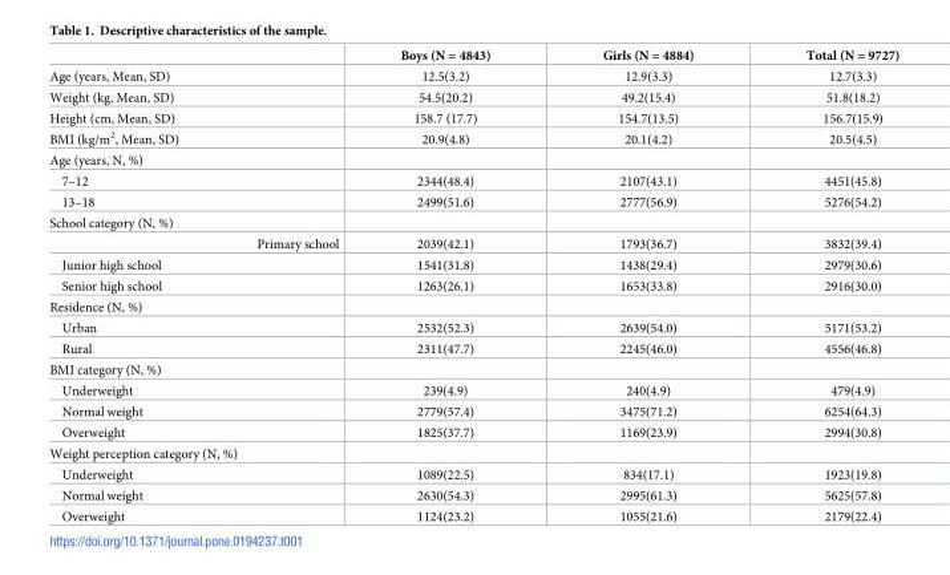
<table><thead><tr><td></td><td>Boys (N = 4843)</td><td>Girls (N = 4884)</td><td>Total (N = 9727)</td></tr></thead><tbody><tr><td>Age (years, Mean, SD)</td><td>12.5(3.2)</td><td>12.9(3.3)</td><td>12.7(3.3)</td></tr><tr><td>Weight (kg, Mean, SD)</td><td>54.5(20.2)</td><td>49.2(15.4)</td><td>51.8(18.2)</td></tr><tr><td>Height (cm, Mean, SD)</td><td>158.7 (17.7)</td><td>154.7(13.5)</td><td>156.7(15.9)</td></tr><tr><td>BMI (kg/m<sup>2</sup>, Mean, SD)</td><td>20.9(4.8)</td><td>20.1(4.2)</td><td>20.5(4.5)</td></tr><tr><td colspan="4">Age (years, N, %)</td></tr><tr><td>7–12</td><td>2344(48.4)</td><td>2107(43.1)</td><td>4451(45.8)</td></tr><tr><td>13–18</td><td>2499(51.6)</td><td>2777(56.9)</td><td>5276(54.2)</td></tr><tr><td colspan="4">School category (N, %)</td></tr><tr><td>Primary school</td><td>2039(42.1)</td><td>1793(36.7)</td><td>3832(39.4)</td></tr><tr><td>Junior high school</td><td>1541(31.8)</td><td>1438(29.4)</td><td>2979(30.6)</td></tr><tr><td>Senior high school</td><td>1263(26.1)</td><td>1653(33.8)</td><td>2916(30.0)</td></tr><tr><td colspan="4">Residence (N, %)</td></tr><tr><td>Urban</td><td>2532(52.3)</td><td>2639(54.0)</td><td>5171(53.2)</td></tr><tr><td>Rural</td><td>2311(47.7)</td><td>2245(46.0)</td><td>4556(46.8)</td></tr><tr><td colspan="4">BMI category (N, %)</td></tr><tr><td>Underweight</td><td>239(4.9)</td><td>240(4.9)</td><td>479(4.9)</td></tr><tr><td>Normal weight</td><td>2779(57.4)</td><td>3475(71.2)</td><td>6254(64.3)</td></tr><tr><td>Overweight</td><td>1825(37.7)</td><td>1169(23.9)</td><td>2994(30.8)</td></tr><tr><td colspan="4">Weight perception category (N, %)</td></tr><tr><td>Underweight</td><td>1089(22.5)</td><td>834(17.1)</td><td>1923(19.8)</td></tr><tr><td>Normal weight</td><td>2630(54.3)</td><td>2995(61.3)</td><td>5625(57.8)</td></tr><tr><td>Overweight</td><td>1124(23.2)</td><td>1055(21.6)</td><td>2179(22.4)</td></tr></tbody></table>